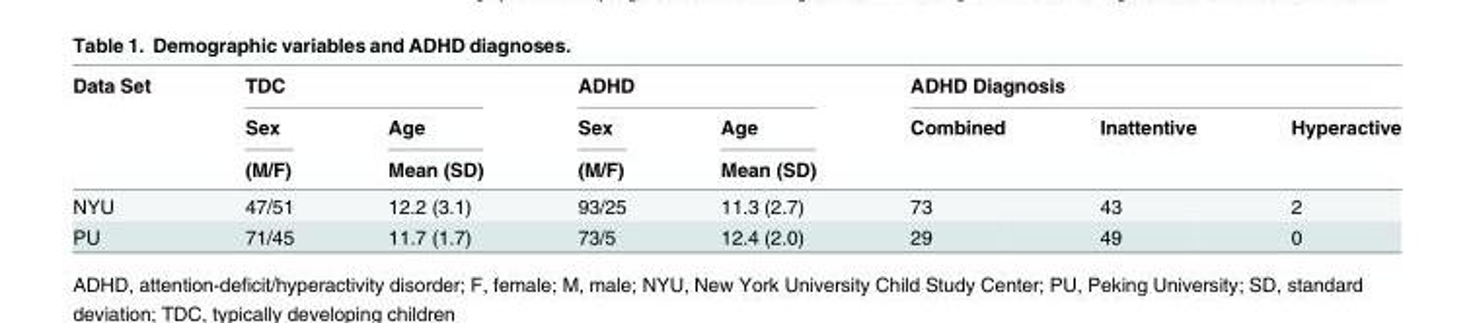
<table><thead><tr><td rowspan="3">Data Set</td><td colspan="2">TDC</td><td colspan="2">ADHD</td><td colspan="3">ADHD Diagnosis</td></tr><tr><td rowspan="2">Sex (M/F)</td><td rowspan="2">Age Mean (SD)</td><td rowspan="2">Sex (M/F)</td><td rowspan="2">Age Mean (SD)</td><td rowspan="2">Combined</td><td rowspan="2">Inattentive</td><td rowspan="2">Hyperactive</td></tr><tr></tr></thead><tbody><tr><td>NYU</td><td>47/51</td><td>12.2 (3.1)</td><td>93/25</td><td>11.3 (2.7)</td><td>73</td><td>43</td><td>2</td></tr><tr><td>PU</td><td>71/45</td><td>11.7 (1.7)</td><td>73/5</td><td>12.4 (2.0)</td><td>29</td><td>49</td><td>0</td></tr></tbody></table>